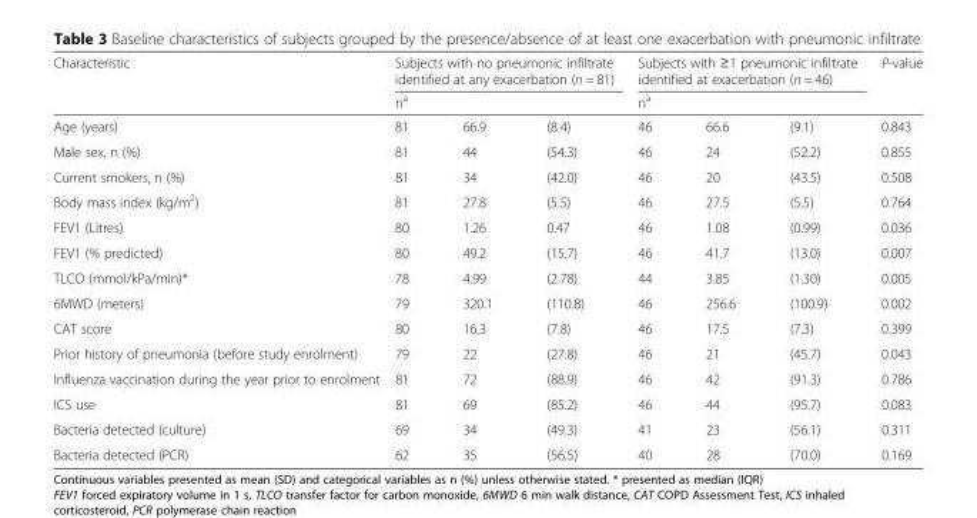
<table><thead><tr><td rowspan="2">Characteristic</td><td colspan="3">Subjects with no pneumonic infiltrate identified at any exacerbation (n = 81)</td><td colspan="3">Subjects with ≥1 pneumonic infiltrate identified at exacerbation (n = 46)</td><td rowspan="2">P-value</td></tr><tr><td>n<sup>a</sup></td><td></td><td></td><td>n<sup>a</sup></td><td></td><td></td></tr></thead><tbody><tr><td>Age (years)</td><td>81</td><td>66.9</td><td>(8.4)</td><td>46</td><td>66.6</td><td>(9.1)</td><td>0.843</td></tr><tr><td>Male sex, n (%)</td><td>81</td><td>44</td><td>(54.3)</td><td>46</td><td>24</td><td>(52.2)</td><td>0.855</td></tr><tr><td>Current smokers, n (%)</td><td>81</td><td>34</td><td>(42.0)</td><td>46</td><td>20</td><td>(43.5)</td><td>0.508</td></tr><tr><td>Body mass index (kg/m<sup>2</sup>)</td><td>81</td><td>27.8</td><td>(5.5)</td><td>46</td><td>27.5</td><td>(5.5)</td><td>0.764</td></tr><tr><td>FEV1 (Litres)</td><td>80</td><td>1.26</td><td>0.47</td><td>46</td><td>1.08</td><td>(0.99)</td><td>0.036</td></tr><tr><td>FEV1 (% predicted)</td><td>80</td><td>49.2</td><td>(15.7)</td><td>46</td><td>41.7</td><td>(13.0)</td><td>0.007</td></tr><tr><td>TLCO (mmol/kPa/min)*</td><td>78</td><td>4.99</td><td>(2.78)</td><td>44</td><td>3.85</td><td>(1.30)</td><td>0.005</td></tr><tr><td>6MWD (meters)</td><td>79</td><td>320.1</td><td>(110.8)</td><td>46</td><td>256.6</td><td>(100.9)</td><td>0.002</td></tr><tr><td>CAT score</td><td>80</td><td>16.3</td><td>(7.8)</td><td>46</td><td>17.5</td><td>(7.3)</td><td>0.399</td></tr><tr><td>Prior history of pneumonia (before study enrolment)</td><td>79</td><td>22</td><td>(27.8)</td><td>46</td><td>21</td><td>(45.7)</td><td>0.043</td></tr><tr><td>Influenza vaccination during the year prior to enrolment</td><td>81</td><td>72</td><td>(88.9)</td><td>46</td><td>42</td><td>(91.3)</td><td>0.786</td></tr><tr><td>ICS use</td><td>81</td><td>69</td><td>(85.2)</td><td>46</td><td>44</td><td>(95.7)</td><td>0.083</td></tr><tr><td>Bacteria detected (culture)</td><td>69</td><td>34</td><td>(49.3)</td><td>41</td><td>23</td><td>(56.1)</td><td>0.311</td></tr><tr><td>Bacteria detected (PCR)</td><td>62</td><td>35</td><td>(56.5)</td><td>40</td><td>28</td><td>(70.0)</td><td>0.169</td></tr></tbody></table>